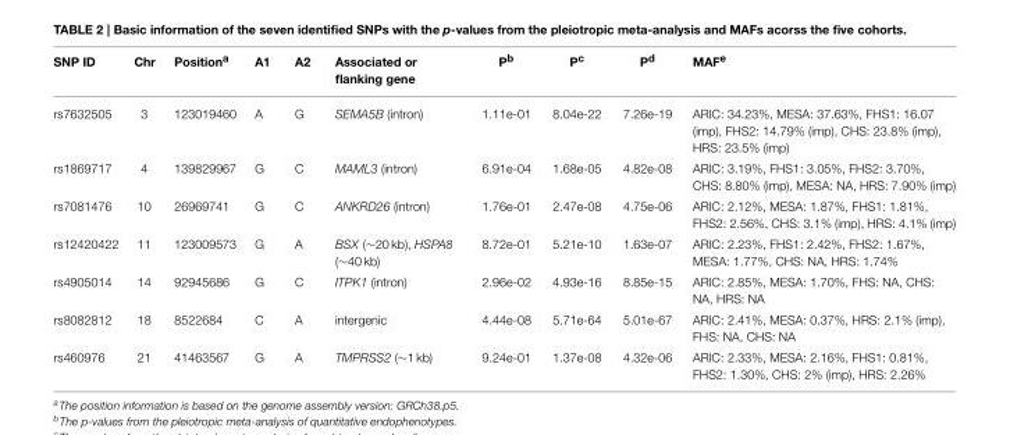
<table><thead><tr><td>SNP ID</td><td>Chr</td><td>Position<sup>a</sup></td><td>A1</td><td>A2</td><td>Associated or flanking gene</td><td>P<sup>b</sup></td><td>P<sup>c</sup></td><td>P<sup>d</sup></td><td>MAF<sup>e</sup></td></tr></thead><tbody><tr><td>rs7632505</td><td>3</td><td>123019460</td><td>A</td><td>G</td><td>SEMA5B (intron)</td><td>1.11e-01</td><td>8.04e-22</td><td>7.26e-19</td><td>ARIC: 34.23%, MESA: 37.63%, FHS1: 16.07 (imp), FHS2: 14.79% (imp), CHS: 23.8% (imp), HRS: 23.5% (imp)</td></tr><tr><td>rs1869717</td><td>4</td><td>139829967</td><td>G</td><td>C</td><td>MAML3 (intron)</td><td>6.91e-04</td><td>1.68e-05</td><td>4.82e-08</td><td>ARIC: 3.19%, FHS1: 3.05%, FHS2: 3.70%, CHS: 8.80% (imp), MESA: NA, HRS: 7.90% (imp)</td></tr><tr><td>rs7081476</td><td>10</td><td>26969741</td><td>G</td><td>C</td><td>ANKRD26 (intron)</td><td>1.76e-01</td><td>2.47e-08</td><td>4.75e-06</td><td>ARIC: 2.12%, MESA: 1.87%, FHS1: 1.81%, FHS2: 2.56%, CHS: 3.1% (imp), HRS: 4.1% (imp)</td></tr><tr><td>rs12420422</td><td>11</td><td>123009573</td><td>G</td><td>A</td><td>BSX (∼20 kb), HSPA8 (∼40 kb)</td><td>8.72e-01</td><td>5.21e-10</td><td>1.63e-07</td><td>ARIC: 2.23%, FHS1: 2.42%, FHS2: 1.67%, MESA: 1.77%, CHS: NA, HRS: 1.74%</td></tr><tr><td>rs4905014</td><td>14</td><td>92945686</td><td>G</td><td>C</td><td>ITPK1 (intron)</td><td>2.96e-02</td><td>4.93e-16</td><td>8.85e-15</td><td>ARIC: 2.85%, MESA: 1.70%, FHS: NA, CHS: NA, HRS: NA</td></tr><tr><td>rs8082812</td><td>18</td><td>8522684</td><td>C</td><td>A</td><td>intergenic</td><td>4.44e-08</td><td>5.71e-64</td><td>5.01e-67</td><td>ARIC: 2.41%, MESA: 0.37%, HRS: 2.1% (imp), FHS: NA, CHS: NA</td></tr><tr><td>rs460976</td><td>21</td><td>41463567</td><td>G</td><td>A</td><td>TMPRSS2 (∼1 kb)</td><td>9.24e-01</td><td>1.37e-08</td><td>4.32e-06</td><td>ARIC: 2.33%, MESA: 2.16%, FHS1: 0.81%, FHS2: 1.30%, CHS: 2% (imp), HRS: 2.26%</td></tr></tbody></table>